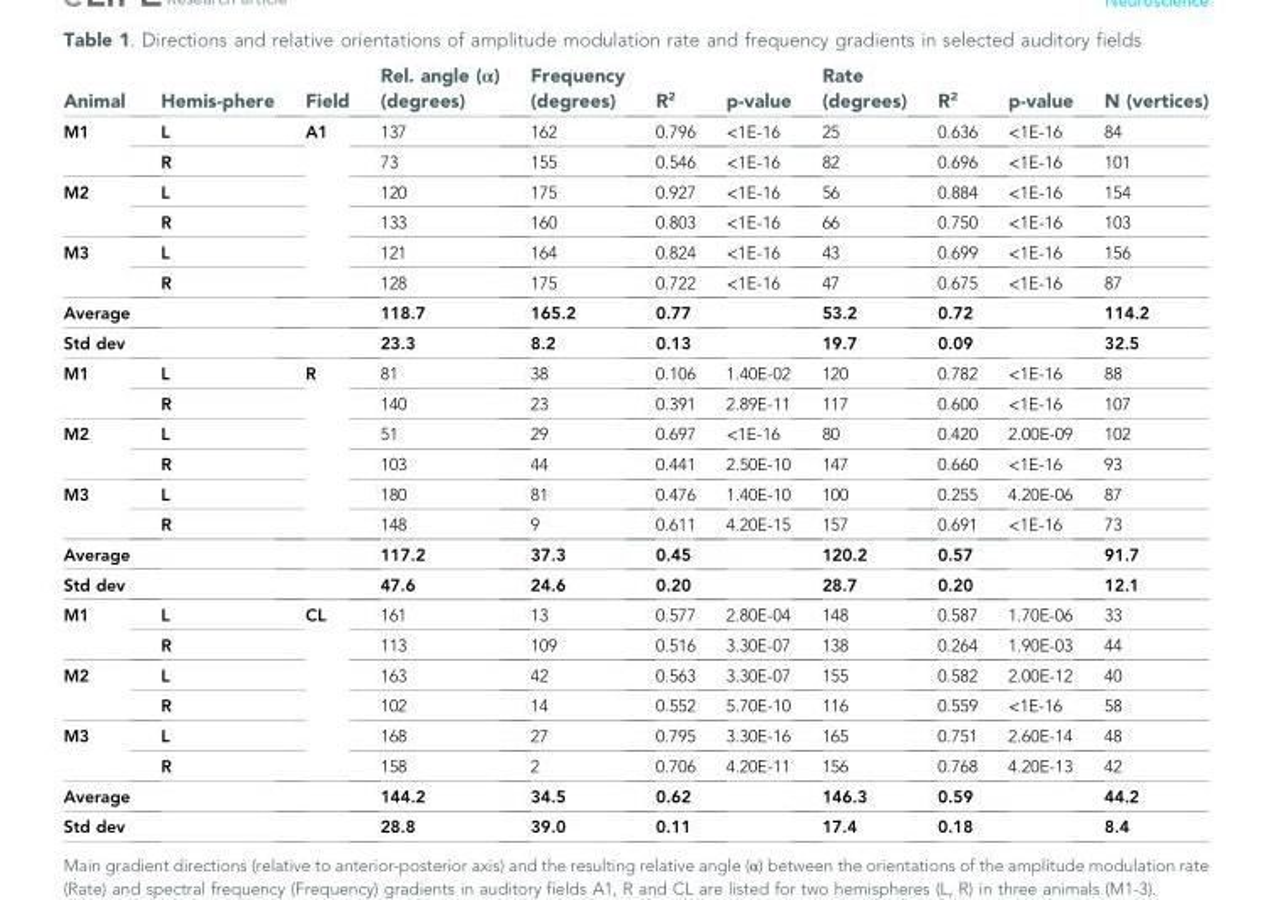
<table><thead><tr><td>Animal</td><td>Hemis-phere</td><td>Field</td><td>Rel. angle (α) (degrees)</td><td>Frequency (degrees)</td><td>R<sup>2</sup></td><td>p-value</td><td>Rate (degrees)</td><td>R<sup>2</sup></td><td>p-value</td><td>N (vertices)</td></tr></thead><tbody><tr><td rowspan="2">M1</td><td>L</td><td rowspan="6">A1</td><td>137</td><td>162</td><td>0.796</td><td>&lt;1E-16</td><td>25</td><td>0.636</td><td>&lt;1E-16</td><td>84</td></tr><tr><td>R</td><td>73</td><td>155</td><td>0.546</td><td>&lt;1E-16</td><td>82</td><td>0.696</td><td>&lt;1E-16</td><td>101</td></tr><tr><td rowspan="2">M2</td><td>L</td><td>120</td><td>175</td><td>0.927</td><td>&lt;1E-16</td><td>56</td><td>0.884</td><td>&lt;1E-16</td><td>154</td></tr><tr><td>R</td><td>133</td><td>160</td><td>0.803</td><td>&lt;1E-16</td><td>66</td><td>0.750</td><td>&lt;1E-16</td><td>103</td></tr><tr><td rowspan="2">M3</td><td>L</td><td>121</td><td>164</td><td>0.824</td><td>&lt;1E-16</td><td>43</td><td>0.699</td><td>&lt;1E-16</td><td>156</td></tr><tr><td>R</td><td>128</td><td>175</td><td>0.722</td><td>&lt;1E-16</td><td>47</td><td>0.675</td><td>&lt;1E-16</td><td>87</td></tr><tr><td>Average</td><td></td><td></td><td>118.7</td><td>165.2</td><td>0.77</td><td></td><td>53.2</td><td>0.72</td><td></td><td>114.2</td></tr><tr><td>Std dev</td><td></td><td></td><td>23.3</td><td>8.2</td><td>0.13</td><td></td><td>19.7</td><td>0.09</td><td></td><td>32.5</td></tr><tr><td rowspan="2">M1</td><td>L</td><td rowspan="6">R</td><td>81</td><td>38</td><td>0.106</td><td>1.40E-02</td><td>120</td><td>0.782</td><td>&lt;1E-16</td><td>88</td></tr><tr><td>R</td><td>140</td><td>23</td><td>0.391</td><td>2.89E-11</td><td>117</td><td>0.600</td><td>&lt;1E-16</td><td>107</td></tr><tr><td rowspan="2">M2</td><td>L</td><td>51</td><td>29</td><td>0.697</td><td>&lt;1E-16</td><td>80</td><td>0.420</td><td>2.00E-09</td><td>102</td></tr><tr><td>R</td><td>103</td><td>44</td><td>0.441</td><td>2.50E-10</td><td>147</td><td>0.660</td><td>&lt;1E-16</td><td>93</td></tr><tr><td rowspan="2">M3</td><td>L</td><td>180</td><td>81</td><td>0.476</td><td>1.40E-10</td><td>100</td><td>0.255</td><td>4.20E-06</td><td>87</td></tr><tr><td>R</td><td>148</td><td>9</td><td>0.611</td><td>4.20E-15</td><td>157</td><td>0.691</td><td>&lt;1E-16</td><td>73</td></tr><tr><td>Average</td><td></td><td></td><td>117.2</td><td>37.3</td><td>0.45</td><td></td><td>120.2</td><td>0.57</td><td></td><td>91.7</td></tr><tr><td>Std dev</td><td></td><td></td><td>47.6</td><td>24.6</td><td>0.20</td><td></td><td>28.7</td><td>0.20</td><td></td><td>12.1</td></tr><tr><td rowspan="2">M1</td><td>L</td><td rowspan="6">CL</td><td>161</td><td>13</td><td>0.577</td><td>2.80E-04</td><td>148</td><td>0.587</td><td>1.70E-06</td><td>33</td></tr><tr><td>R</td><td>113</td><td>109</td><td>0.516</td><td>3.30E-07</td><td>138</td><td>0.264</td><td>1.90E-03</td><td>44</td></tr><tr><td rowspan="2">M2</td><td>L</td><td>163</td><td>42</td><td>0.563</td><td>3.30E-07</td><td>155</td><td>0.582</td><td>2.00E-12</td><td>40</td></tr><tr><td>R</td><td>102</td><td>14</td><td>0.552</td><td>5.70E-10</td><td>116</td><td>0.559</td><td>&lt;1E-16</td><td>58</td></tr><tr><td rowspan="2">M3</td><td>L</td><td>168</td><td>27</td><td>0.795</td><td>3.30E-16</td><td>165</td><td>0.751</td><td>2.60E-14</td><td>48</td></tr><tr><td>R</td><td>158</td><td>2</td><td>0.706</td><td>4.20E-11</td><td>156</td><td>0.768</td><td>4.20E-13</td><td>42</td></tr><tr><td>Average</td><td></td><td></td><td>144.2</td><td>34.5</td><td>0.62</td><td></td><td>146.3</td><td>0.59</td><td></td><td>44.2</td></tr><tr><td>Std dev</td><td></td><td></td><td>28.8</td><td>39.0</td><td>0.11</td><td></td><td>17.4</td><td>0.18</td><td></td><td>8.4</td></tr></tbody></table>